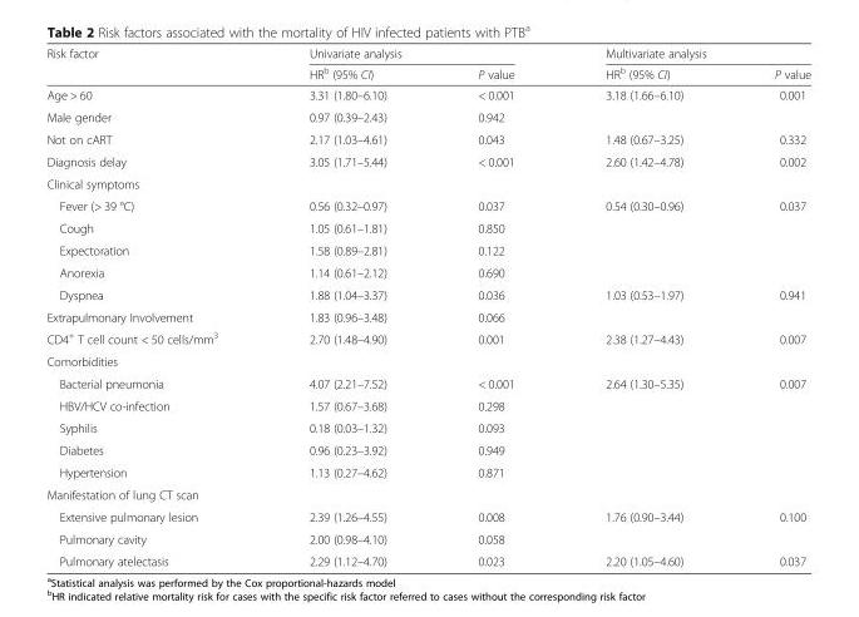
<table><thead><tr><td rowspan="2">Risk factor</td><td colspan="2">Univariate analysis</td><td colspan="2">Multivariate analysis</td></tr><tr><td>HR<sup>b</sup> (95% CI)</td><td>P value</td><td>HR<sup>b</sup> (95% CI)</td><td>P value</td></tr></thead><tbody><tr><td>Age &gt; 60</td><td>3.31 (1.80–6.10)</td><td>&lt; 0.001</td><td>3.18 (1.66–6.10)</td><td>0.001</td></tr><tr><td>Male gender</td><td>0.97 (0.39–2.43)</td><td>0.942</td><td></td><td></td></tr><tr><td>Not on cART</td><td>2.17 (1.03–4.61)</td><td>0.043</td><td>1.48 (0.67–3.25)</td><td>0.332</td></tr><tr><td>Diagnosis delay</td><td>3.05 (1.71–5.44)</td><td>&lt; 0.001</td><td>2.60 (1.42–4.78)</td><td>0.002</td></tr><tr><td colspan="5">Clinical symptoms</td></tr><tr><td>Fever (&gt; 39 °C)</td><td>0.56 (0.32–0.97)</td><td>0.037</td><td>0.54 (0.30–0.96)</td><td>0.037</td></tr><tr><td>Cough</td><td>1.05 (0.61–1.81)</td><td>0.850</td><td></td><td></td></tr><tr><td>Expectoration</td><td>1.58 (0.89–2.81)</td><td>0.122</td><td></td><td></td></tr><tr><td>Anorexia</td><td>1.14 (0.61–2.12)</td><td>0.690</td><td></td><td></td></tr><tr><td>Dyspnea</td><td>1.88 (1.04–3.37)</td><td>0.036</td><td>1.03 (0.53–1.97)</td><td>0.941</td></tr><tr><td>Extrapulmonary Involvement</td><td>1.83 (0.96–3.48)</td><td>0.066</td><td></td><td></td></tr><tr><td>CD4<sup>+</sup> T cell count &lt; 50 cells/mm<sup>3</sup></td><td>2.70 (1.48–4.90)</td><td>0.001</td><td>2.38 (1.27–4.43)</td><td>0.007</td></tr><tr><td colspan="5">Comorbidities</td></tr><tr><td>Bacterial pneumonia</td><td>4.07 (2.21–7.52)</td><td>&lt; 0.001</td><td>2.64 (1.30–5.35)</td><td>0.007</td></tr><tr><td>HBV/HCV co-infection</td><td>1.57 (0.67–3.68)</td><td>0.298</td><td></td><td></td></tr><tr><td>Syphilis</td><td>0.18 (0.03–1.32)</td><td>0.093</td><td></td><td></td></tr><tr><td>Diabetes</td><td>0.96 (0.23–3.92)</td><td>0.949</td><td></td><td></td></tr><tr><td>Hypertension</td><td>1.13 (0.27–4.62)</td><td>0.871</td><td></td><td></td></tr><tr><td colspan="5">Manifestation of lung CT scan</td></tr><tr><td>Extensive pulmonary lesion</td><td>2.39 (1.26–4.55)</td><td>0.008</td><td>1.76 (0.90–3.44)</td><td>0.100</td></tr><tr><td>Pulmonary cavity</td><td>2.00 (0.98–4.10)</td><td>0.058</td><td></td><td></td></tr><tr><td>Pulmonary atelectasis</td><td>2.29 (1.12–4.70)</td><td>0.023</td><td>2.20 (1.05–4.60)</td><td>0.037</td></tr></tbody></table>